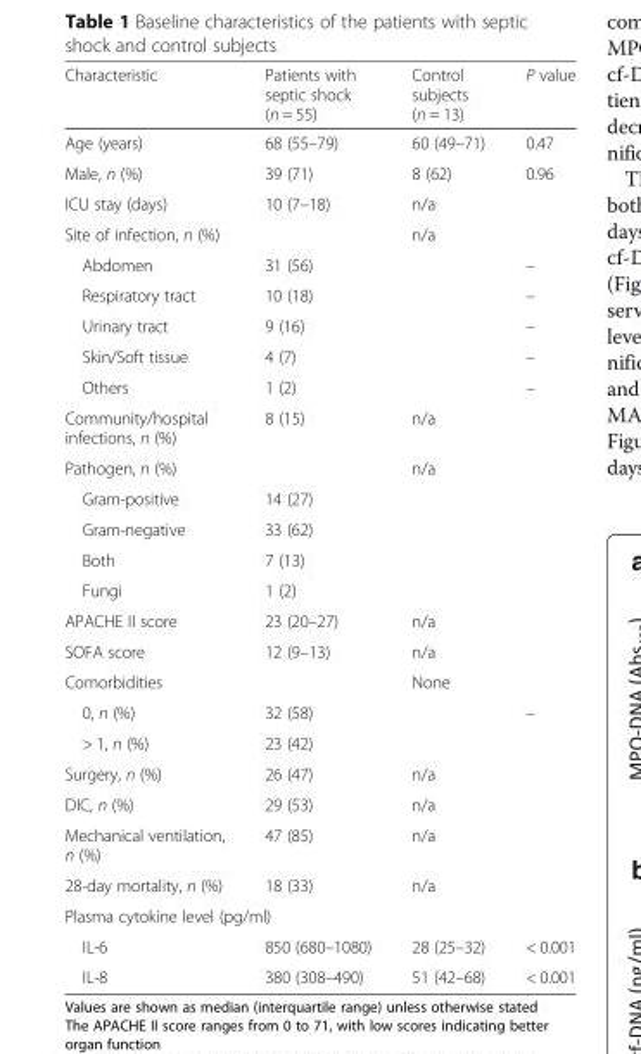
<table><thead><tr><td>Characteristic</td><td>Patients with septic shock (n = 55)</td><td>Control subjects (n = 13)</td><td>P value</td></tr></thead><tbody><tr><td>Age (years)</td><td>68 (55–79)</td><td>60 (49–71)</td><td>0.47</td></tr><tr><td>Male, n (%)</td><td>39 (71)</td><td>8 (62)</td><td>0.96</td></tr><tr><td>ICU stay (days)</td><td>10 (7–18)</td><td>n/a</td><td></td></tr><tr><td>Site of infection, n (%)</td><td></td><td>n/a</td><td></td></tr><tr><td>Abdomen</td><td>31 (56)</td><td></td><td>–</td></tr><tr><td>Respiratory tract</td><td>10 (18)</td><td></td><td>–</td></tr><tr><td>Urinary tract</td><td>9 (16)</td><td></td><td>–</td></tr><tr><td>Skin/Soft tissue</td><td>4 (7)</td><td></td><td>–</td></tr><tr><td>Others</td><td>1 (2)</td><td></td><td>–</td></tr><tr><td>Community/hospital infections, n (%)</td><td>8 (15)</td><td>n/a</td><td></td></tr><tr><td>Pathogen, n (%)</td><td></td><td>n/a</td><td></td></tr><tr><td>Gram-positive</td><td>14 (27)</td><td></td><td></td></tr><tr><td>Gram-negative</td><td>33 (62)</td><td></td><td></td></tr><tr><td>Both</td><td>7 (13)</td><td></td><td></td></tr><tr><td>Fungi</td><td>1 (2)</td><td></td><td></td></tr><tr><td>APACHE II score</td><td>23 (20–27)</td><td>n/a</td><td></td></tr><tr><td>SOFA score</td><td>12 (9–13)</td><td>n/a</td><td></td></tr><tr><td>Comorbidities</td><td></td><td>None</td><td></td></tr><tr><td>0, n (%)</td><td>32 (58)</td><td></td><td>–</td></tr><tr><td>&gt; 1, n (%)</td><td>23 (42)</td><td></td><td></td></tr><tr><td>Surgery, n (%)</td><td>26 (47)</td><td>n/a</td><td></td></tr><tr><td>DIC, n (%)</td><td>29 (53)</td><td>n/a</td><td></td></tr><tr><td>Mechanical ventilation, n (%)</td><td>47 (85)</td><td>n/a</td><td></td></tr><tr><td>28-day mortality, n (%)</td><td>18 (33)</td><td>n/a</td><td></td></tr><tr><td colspan="4">Plasma cytokine level (pg/ml)</td></tr><tr><td>IL-6</td><td>850 (680–1080)</td><td>28 (25–32)</td><td>&lt; 0.001</td></tr><tr><td>IL-8</td><td>380 (308–490)</td><td>51 (42–68)</td><td>&lt; 0.001</td></tr></tbody></table>